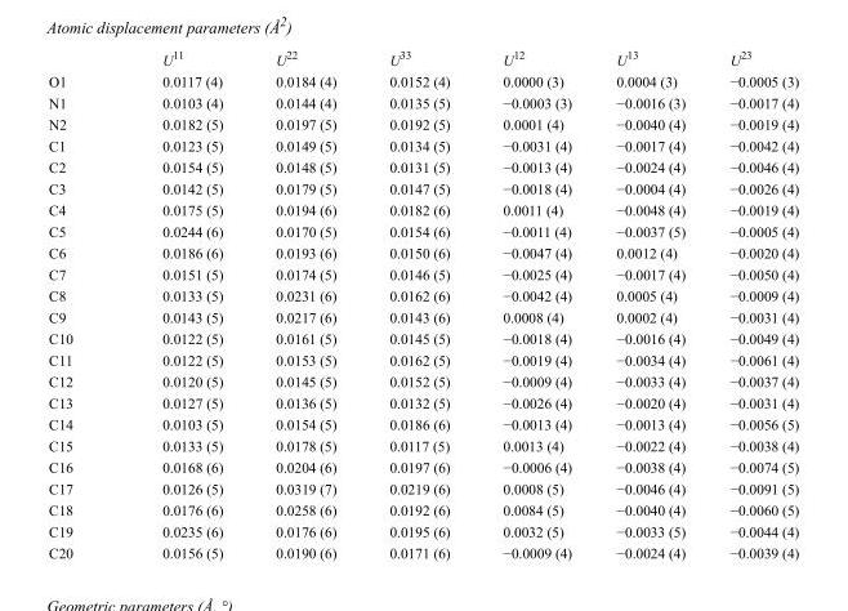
<table><thead><tr><td></td><td>U<sup>11</sup></td><td>U<sup>22</sup></td><td>U<sup>33</sup></td><td>U<sup>12</sup></td><td>U<sup>13</sup></td><td>U<sup>23</sup></td></tr></thead><tbody><tr><td>O1</td><td>0.0117 (4)</td><td>0.0184 (4)</td><td>0.0152 (4)</td><td>0.0000 (3)</td><td>0.0004 (3)</td><td>−0.0005 (3)</td></tr><tr><td>N1</td><td>0.0103 (4)</td><td>0.0144 (4)</td><td>0.0135 (5)</td><td>−0.0003 (3)</td><td>−0.0016 (3)</td><td>−0.0017 (4)</td></tr><tr><td>N2</td><td>0.0182 (5)</td><td>0.0197 (5)</td><td>0.0192 (5)</td><td>0.0001 (4)</td><td>−0.0040 (4)</td><td>−0.0019 (4)</td></tr><tr><td>C1</td><td>0.0123 (5)</td><td>0.0149 (5)</td><td>0.0134 (5)</td><td>−0.0031 (4)</td><td>−0.0017 (4)</td><td>−0.0042 (4)</td></tr><tr><td>C2</td><td>0.0154 (5)</td><td>0.0148 (5)</td><td>0.0131 (5)</td><td>−0.0013 (4)</td><td>−0.0024 (4)</td><td>−0.0046 (4)</td></tr><tr><td>C3</td><td>0.0142 (5)</td><td>0.0179 (5)</td><td>0.0147 (5)</td><td>−0.0018 (4)</td><td>−0.0004 (4)</td><td>−0.0026 (4)</td></tr><tr><td>C4</td><td>0.0175 (5)</td><td>0.0194 (6)</td><td>0.0182 (6)</td><td>0.0011 (4)</td><td>−0.0048 (4)</td><td>−0.0019 (4)</td></tr><tr><td>C5</td><td>0.0244 (6)</td><td>0.0170 (5)</td><td>0.0154 (6)</td><td>−0.0011 (4)</td><td>−0.0037 (5)</td><td>−0.0005 (4)</td></tr><tr><td>C6</td><td>0.0186 (6)</td><td>0.0193 (6)</td><td>0.0150 (6)</td><td>−0.0047 (4)</td><td>0.0012 (4)</td><td>−0.0020 (4)</td></tr><tr><td>C7</td><td>0.0151 (5)</td><td>0.0174 (5)</td><td>0.0146 (5)</td><td>−0.0025 (4)</td><td>−0.0017 (4)</td><td>−0.0050 (4)</td></tr><tr><td>C8</td><td>0.0133 (5)</td><td>0.0231 (6)</td><td>0.0162 (6)</td><td>−0.0042 (4)</td><td>0.0005 (4)</td><td>−0.0009 (4)</td></tr><tr><td>C9</td><td>0.0143 (5)</td><td>0.0217 (6)</td><td>0.0143 (6)</td><td>0.0008 (4)</td><td>0.0002 (4)</td><td>−0.0031 (4)</td></tr><tr><td>C10</td><td>0.0122 (5)</td><td>0.0161 (5)</td><td>0.0145 (5)</td><td>−0.0018 (4)</td><td>−0.0016 (4)</td><td>−0.0049 (4)</td></tr><tr><td>C11</td><td>0.0122 (5)</td><td>0.0153 (5)</td><td>0.0162 (5)</td><td>−0.0019 (4)</td><td>−0.0034 (4)</td><td>−0.0061 (4)</td></tr><tr><td>C12</td><td>0.0120 (5)</td><td>0.0145 (5)</td><td>0.0152 (5)</td><td>−0.0009 (4)</td><td>−0.0033 (4)</td><td>−0.0037 (4)</td></tr><tr><td>C13</td><td>0.0127 (5)</td><td>0.0136 (5)</td><td>0.0132 (5)</td><td>−0.0026 (4)</td><td>−0.0020 (4)</td><td>−0.0031 (4)</td></tr><tr><td>C14</td><td>0.0103 (5)</td><td>0.0154 (5)</td><td>0.0186 (6)</td><td>−0.0013 (4)</td><td>−0.0013 (4)</td><td>−0.0056 (5)</td></tr><tr><td>C15</td><td>0.0133 (5)</td><td>0.0178 (5)</td><td>0.0117 (5)</td><td>0.0013 (4)</td><td>−0.0022 (4)</td><td>−0.0038 (4)</td></tr><tr><td>C16</td><td>0.0168 (6)</td><td>0.0204 (6)</td><td>0.0197 (6)</td><td>−0.0006 (4)</td><td>−0.0038 (4)</td><td>−0.0074 (5)</td></tr><tr><td>C17</td><td>0.0126 (5)</td><td>0.0319 (7)</td><td>0.0219 (6)</td><td>0.0008 (5)</td><td>−0.0046 (4)</td><td>−0.0091 (5)</td></tr><tr><td>C18</td><td>0.0176 (6)</td><td>0.0258 (6)</td><td>0.0192 (6)</td><td>0.0084 (5)</td><td>−0.0040 (4)</td><td>−0.0060 (5)</td></tr><tr><td>C19</td><td>0.0235 (6)</td><td>0.0176 (6)</td><td>0.0195 (6)</td><td>0.0032 (5)</td><td>−0.0033 (5)</td><td>−0.0044 (4)</td></tr><tr><td>C20</td><td>0.0156 (5)</td><td>0.0190 (6)</td><td>0.0171 (6)</td><td>−0.0009 (4)</td><td>−0.0024 (4)</td><td>−0.0039 (4)</td></tr></tbody></table>